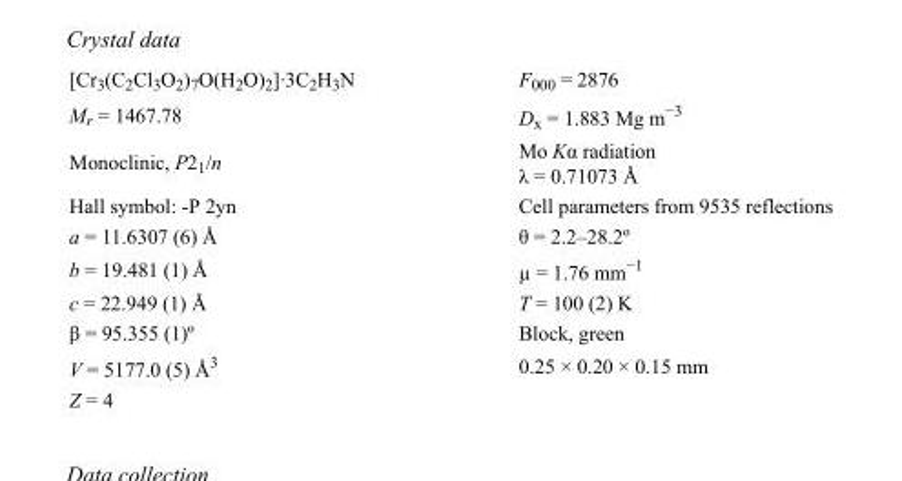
<table><tbody><tr><td>[Cr<sub>3</sub>(C<sub>2</sub>Cl<sub>3</sub>O<sub>2</sub>)<sub>7</sub>O(H<sub>2</sub>O)<sub>2</sub>]·3C<sub>2</sub>H<sub>3</sub>N</td><td>F<sub>000</sub> = 2876</td></tr><tr><td>M<sub>r</sub> = 1467.78</td><td>D<sub>x</sub> = 1.883 Mg m<sup>−3</sup></td></tr><tr><td>Monoclinic, P2<sub>1</sub>/n</td><td>Mo Kα radiation λ = 0.71073 Å</td></tr><tr><td>Hall symbol: -P 2yn</td><td>Cell parameters from 9535 reflections</td></tr><tr><td>a = 11.6307 (6) Å</td><td>θ = 2.2–28.2º</td></tr><tr><td>b = 19.481 (1) Å</td><td>µ = 1.76 mm<sup>−1</sup></td></tr><tr><td>c = 22.949 (1) Å</td><td>T = 100 (2) K</td></tr><tr><td>β = 95.355 (1)º</td><td>Block, green</td></tr><tr><td>V = 5177.0 (5) Å<sup>3</sup></td><td>0.25 × 0.20 × 0.15 mm</td></tr><tr><td>Z = 4</td><td></td></tr></tbody></table>